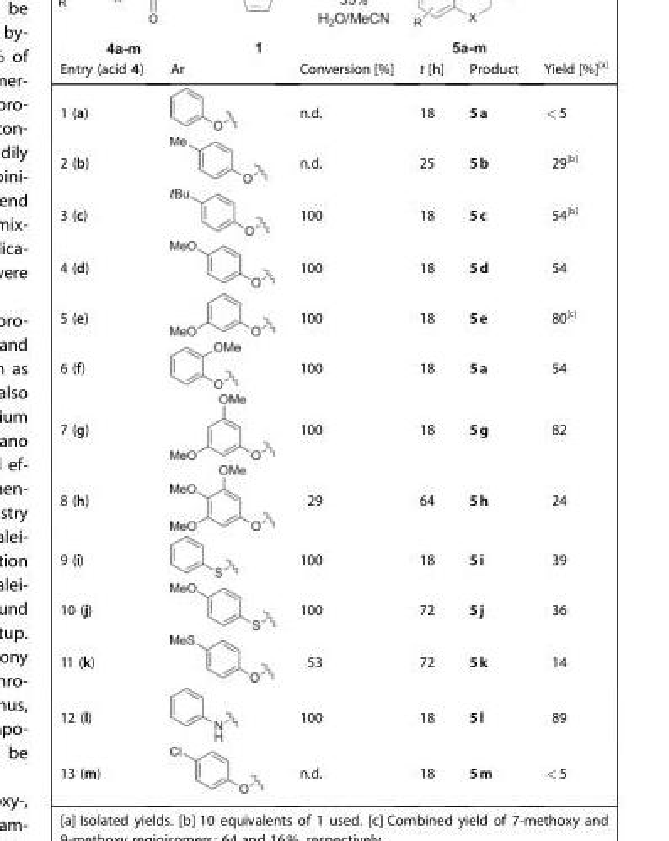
<table><thead><tr><td>Entry (acid 4)</td><td>Ar</td><td>Conversion [%]</td><td>t [h]</td><td>Product</td><td>Yield [%]<sup>[a]</sup></td></tr></thead><tbody><tr><td>1 (a)</td><td></td><td>n.d.</td><td>18</td><td>5a</td><td>&lt;5</td></tr><tr><td>2 (b)</td><td></td><td>n.d.</td><td>25</td><td>5b</td><td>29<sup>[b]</sup></td></tr><tr><td>3 (c)</td><td></td><td>100</td><td>18</td><td>5c</td><td>54<sup>[b]</sup></td></tr><tr><td>4 (d)</td><td></td><td>100</td><td>18</td><td>5d</td><td>54</td></tr><tr><td>5 (e)</td><td></td><td>100</td><td>18</td><td>5e</td><td>80<sup>[c]</sup></td></tr><tr><td>6 (f)</td><td></td><td>100</td><td>18</td><td>5a</td><td>54</td></tr><tr><td>7 (g)</td><td></td><td>100</td><td>18</td><td>5g</td><td>82</td></tr><tr><td>8 (h)</td><td></td><td>29</td><td>64</td><td>5h</td><td>24</td></tr><tr><td>9 (i)</td><td></td><td>100</td><td>18</td><td>5i</td><td>39</td></tr><tr><td>10 (j)</td><td></td><td>100</td><td>72</td><td>5j</td><td>36</td></tr><tr><td>11 (k)</td><td></td><td>53</td><td>72</td><td>5k</td><td>14</td></tr><tr><td>12 (l)</td><td></td><td>100</td><td>18</td><td>5l</td><td>89</td></tr><tr><td>13 (m)</td><td></td><td>n.d.</td><td>18</td><td>5m</td><td>&lt;5</td></tr></tbody></table>